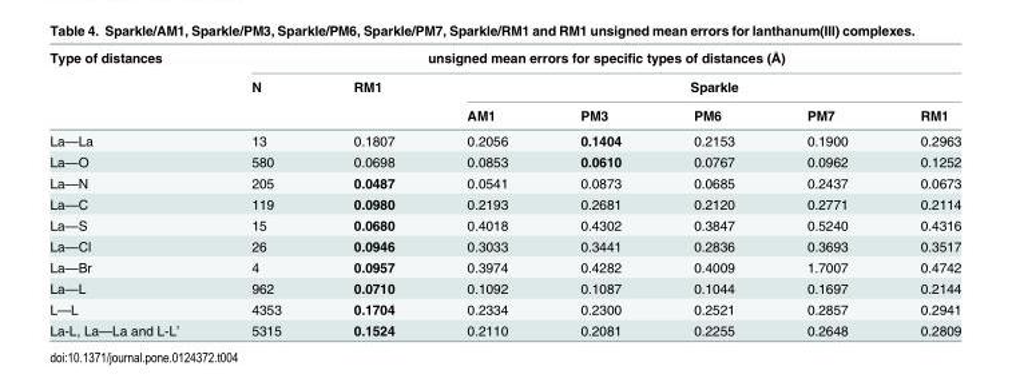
<table><thead><tr><td rowspan="3">Type of distances</td><td colspan="7">unsigned mean errors for specific types of distances (Å)</td></tr><tr><td rowspan="2">N</td><td rowspan="2">RM1</td><td colspan="5">Sparkle</td></tr><tr><td>AM1</td><td>PM3</td><td>PM6</td><td>PM7</td><td>RM1</td></tr></thead><tbody><tr><td>La—La</td><td>13</td><td>0.1807</td><td>0.2056</td><td>0.1404</td><td>0.2153</td><td>0.1900</td><td>0.2963</td></tr><tr><td>La—O</td><td>580</td><td>0.0698</td><td>0.0853</td><td>0.0610</td><td>0.0767</td><td>0.0962</td><td>0.1252</td></tr><tr><td>La—N</td><td>205</td><td>0.0487</td><td>0.0541</td><td>0.0873</td><td>0.0685</td><td>0.2437</td><td>0.0673</td></tr><tr><td>La—C</td><td>119</td><td>0.0980</td><td>0.2193</td><td>0.2681</td><td>0.2120</td><td>0.2771</td><td>0.2114</td></tr><tr><td>La—S</td><td>15</td><td>0.0680</td><td>0.4018</td><td>0.4302</td><td>0.3847</td><td>0.5240</td><td>0.4316</td></tr><tr><td>La—Cl</td><td>26</td><td>0.0946</td><td>0.3033</td><td>0.3441</td><td>0.2836</td><td>0.3693</td><td>0.3517</td></tr><tr><td>La—Br</td><td>4</td><td>0.0957</td><td>0.3974</td><td>0.4282</td><td>0.4009</td><td>1.7007</td><td>0.4742</td></tr><tr><td>La—L</td><td>962</td><td>0.0710</td><td>0.1092</td><td>0.1087</td><td>0.1044</td><td>0.1697</td><td>0.2144</td></tr><tr><td>L—L</td><td>4353</td><td>0.1704</td><td>0.2334</td><td>0.2300</td><td>0.2521</td><td>0.2857</td><td>0.2941</td></tr><tr><td>La-L, La—La and L-L’</td><td>5315</td><td>0.1524</td><td>0.2110</td><td>0.2081</td><td>0.2255</td><td>0.2648</td><td>0.2809</td></tr></tbody></table>